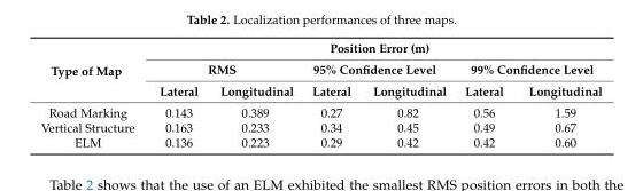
<table><thead><tr><td rowspan="3">Type of Map</td><td colspan="6">Position Error (m)</td></tr><tr><td colspan="2">RMS</td><td colspan="2">95% Confidence Level</td><td colspan="2">99% Confidence Level</td></tr><tr><td>Lateral</td><td>Longitudinal</td><td>Lateral</td><td>Longitudinal</td><td>Lateral</td><td>Longitudinal</td></tr></thead><tbody><tr><td>Road Marking</td><td>0.143</td><td>0.389</td><td>0.27</td><td>0.82</td><td>0.56</td><td>1.59</td></tr><tr><td>Vertical Structure</td><td>0.163</td><td>0.233</td><td>0.34</td><td>0.45</td><td>0.49</td><td>0.67</td></tr><tr><td>ELM</td><td>0.136</td><td>0.223</td><td>0.29</td><td>0.42</td><td>0.42</td><td>0.60</td></tr></tbody></table>